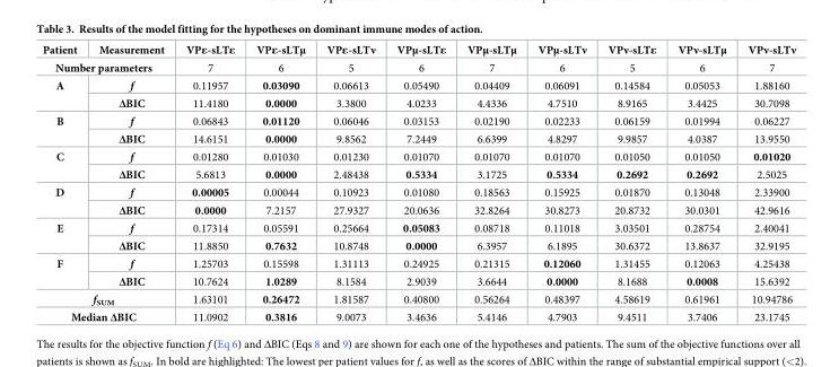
<table><thead><tr><td>Patient</td><td>Measurement</td><td>VPε-sLTε</td><td>VPε-sLTμ</td><td>VPε-sLTν</td><td>VPμ-sLTε</td><td>VPμ-sLTμ</td><td>VPμ-sLTν</td><td>VPν-sLTε</td><td>VPν-sLTμ</td><td>VPν-sLTν</td></tr></thead><tbody><tr><td colspan="2">Number parameters</td><td>7</td><td>6</td><td>5</td><td>6</td><td>7</td><td>6</td><td>5</td><td>6</td><td>7</td></tr><tr><td rowspan="2">A</td><td>f</td><td>0.11957</td><td>0.03090</td><td>0.06613</td><td>0.05490</td><td>0.04409</td><td>0.06091</td><td>0.14584</td><td>0.05053</td><td>1.88160</td></tr><tr><td>ΔBIC</td><td>11.4180</td><td>0.0000</td><td>3.3800</td><td>4.0233</td><td>4.4336</td><td>4.7510</td><td>8.9165</td><td>3.4425</td><td>30.7098</td></tr><tr><td rowspan="2">B</td><td>f</td><td>0.06843</td><td>0.01120</td><td>0.06046</td><td>0.03153</td><td>0.02190</td><td>0.02233</td><td>0.06159</td><td>0.01994</td><td>0.06227</td></tr><tr><td>ΔBIC</td><td>14.6151</td><td>0.0000</td><td>9.8562</td><td>7.2449</td><td>6.6399</td><td>4.8297</td><td>9.9857</td><td>4.0387</td><td>13.9550</td></tr><tr><td rowspan="2">C</td><td>f</td><td>0.01280</td><td>0.01030</td><td>0.01230</td><td>0.01070</td><td>0.01070</td><td>0.01070</td><td>0.01050</td><td>0.01050</td><td>0.01020</td></tr><tr><td>ΔBIC</td><td>5.6813</td><td>0.0000</td><td>2.48438</td><td>0.5334</td><td>3.1725</td><td>0.5334</td><td>0.2692</td><td>0.2692</td><td>2.5025</td></tr><tr><td rowspan="2">D</td><td>f</td><td>0.00005</td><td>0.00044</td><td>0.10923</td><td>0.01080</td><td>0.18563</td><td>0.15925</td><td>0.01870</td><td>0.13048</td><td>2.33900</td></tr><tr><td>ΔBIC</td><td>0.0000</td><td>7.2157</td><td>27.9327</td><td>20.0636</td><td>32.8264</td><td>30.8273</td><td>20.8732</td><td>30.0301</td><td>42.9616</td></tr><tr><td rowspan="2">E</td><td>f</td><td>0.17314</td><td>0.05591</td><td>0.25664</td><td>0.05083</td><td>0.08718</td><td>0.11018</td><td>3.03501</td><td>0.28754</td><td>2.40041</td></tr><tr><td>ΔBIC</td><td>11.8850</td><td>0.7632</td><td>10.8748</td><td>0.0000</td><td>6.3957</td><td>6.1895</td><td>30.6372</td><td>13.8637</td><td>32.9195</td></tr><tr><td rowspan="2">F</td><td>f</td><td>1.25703</td><td>0.15598</td><td>1.31113</td><td>0.24925</td><td>0.21315</td><td>0.12060</td><td>1.31455</td><td>0.12063</td><td>4.25438</td></tr><tr><td>ΔBIC</td><td>10.7624</td><td>1.0289</td><td>8.1584</td><td>2.9039</td><td>3.6644</td><td>0.0000</td><td>8.1688</td><td>0.0008</td><td>15.6392</td></tr><tr><td colspan="2">f<sub>SUM</sub></td><td>1.63101</td><td>0.26472</td><td>1.81587</td><td>0.40800</td><td>0.56264</td><td>0.48397</td><td>4.58619</td><td>0.61961</td><td>10.94786</td></tr><tr><td colspan="2">Median ΔBIC</td><td>11.0902</td><td>0.3816</td><td>9.0073</td><td>3.4636</td><td>5.4146</td><td>4.7903</td><td>9.4511</td><td>3.7406</td><td>23.1745</td></tr></tbody></table>